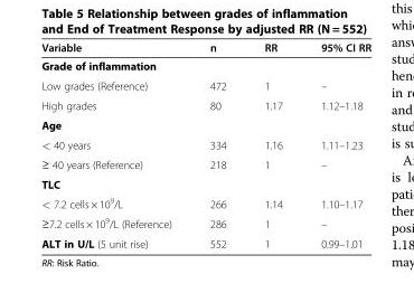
<table><thead><tr><td>Variable</td><td>n</td><td>RR</td><td>95% CI RR</td></tr></thead><tbody><tr><td colspan="4">Grade of inflammation</td></tr><tr><td>Low grades (Reference)</td><td>472</td><td>1</td><td>–</td></tr><tr><td>High grades</td><td>80</td><td>1.17</td><td>1.12–1.18</td></tr><tr><td colspan="4">Age</td></tr><tr><td>&lt; 40 years</td><td>334</td><td>1.16</td><td>1.11–1.23</td></tr><tr><td>≥ 40 years (Reference)</td><td>218</td><td>1</td><td>–</td></tr><tr><td colspan="4">TLC</td></tr><tr><td>&lt; 7.2 cells × 10<sup>9</sup>/L</td><td>266</td><td>1.14</td><td>1.10–1.17</td></tr><tr><td>≥7.2 cells × 10<sup>9</sup>/L (Reference)</td><td>286</td><td>1</td><td>–</td></tr><tr><td>ALT in U/L (5 unit rise)</td><td>552</td><td>1</td><td>0.99–1.01</td></tr></tbody></table>